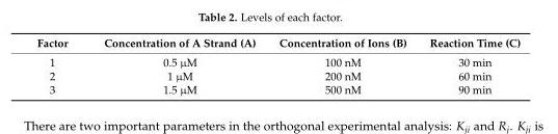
<table><thead><tr><td>Factor</td><td>Concentration of A Strand (A)</td><td>Concentration of Ions (B)</td><td>Reaction Time (C)</td></tr></thead><tbody><tr><td>1</td><td>0.5 µM</td><td>100 nM</td><td>30 min</td></tr><tr><td>2</td><td>1 µM</td><td>200 nM</td><td>60 min</td></tr><tr><td>3</td><td>1.5 µM</td><td>500 nM</td><td>90 min</td></tr></tbody></table>